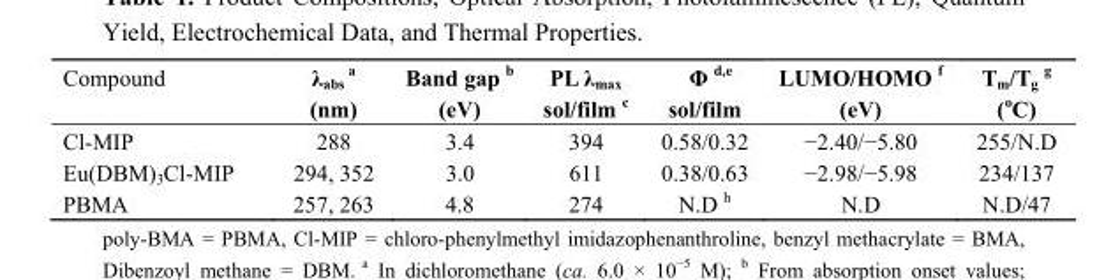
<table><thead><tr><td>Compound</td><td>λ<sub>abs</sub> <sup>a</sup> (nm)</td><td>Band gap b (eV)</td><td>PL λ<sub>max</sub> sol/film c</td><td>Φ d,e sol/film</td><td>LUMO/HOMO f (eV)</td><td>T<sub>m</sub>/T<sub>g</sub> <sup>g</sup> (°C)</td></tr></thead><tbody><tr><td>Cl-MIP</td><td>288</td><td>3.4</td><td>394</td><td>0.58/0.32</td><td>−2.40/−5.80</td><td>255/N.D</td></tr><tr><td>Eu(DBM)<sub>3</sub>Cl-MIP</td><td>294, 352</td><td>3.0</td><td>611</td><td>0.38/0.63</td><td>−2.98/−5.98</td><td>234/137</td></tr><tr><td>PBMA</td><td>257, 263</td><td>4.8</td><td>274</td><td>N.D h</td><td>N.D</td><td>N.D/47</td></tr></tbody></table>